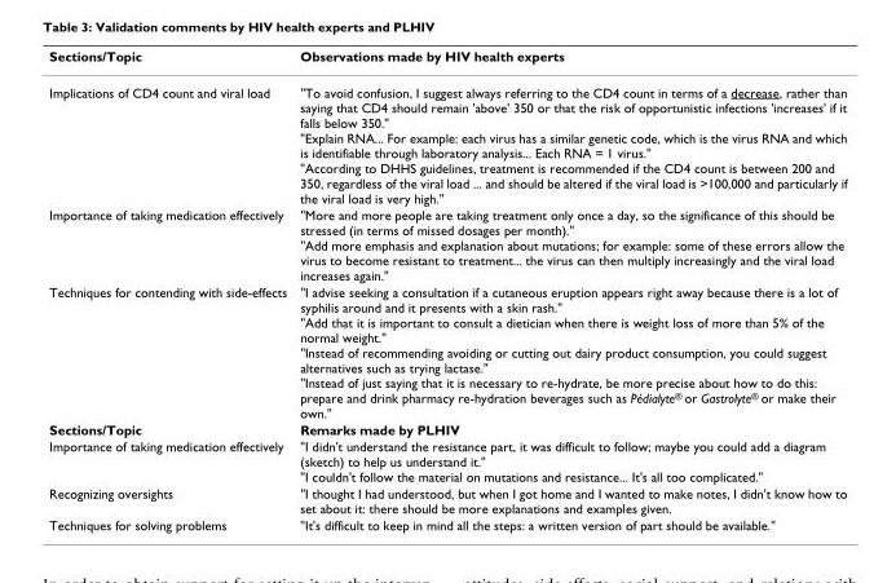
<table><thead><tr><td>Sections/Topic</td><td>Observations made by HIV health experts</td></tr></thead><tbody><tr><td>Implications of CD4 count and viral load</td><td>&quot;To avoid confusion, I suggest always referring to the CD4 count in terms of a decrease, rather than saying that CD4 should remain &#x27;above&#x27; 350 or that the risk of opportunistic infections &#x27;increases&#x27; if it falls below 350.&quot; &quot;Explain RNA... For example: each virus has a similar genetic code, which is the virus RNA and which is identifiable through laboratory analysis... Each RNA = 1 virus.&quot; &quot;According to DHHS guidelines, treatment is recommended if the CD4 count is between 200 and 350, regardless of the viral load ... and should be altered if the viral load is &gt;100,000 and particularly if the viral load is very high.&quot;</td></tr><tr><td>Importance of taking medication effectively</td><td>&quot;More and more people are taking treatment only once a day, so the significance of this should be stressed (in terms of missed dosages per month).&quot; &quot;Add more emphasis and explanation about mutations; for example: some of these errors allow the virus to become resistant to treatment... the virus can then multiply increasingly and the viral load increases again.&quot;</td></tr><tr><td>Techniques for contending with side-effects</td><td>&quot;I advise seeking a consultation if a cutaneous eruption appears right away because there is a lot of syphilis around and it presents with a skin rash.&quot; &quot;Add that it is important to consult a dietician when there is weight loss of more than 5% of the normal weight.&quot; &quot;Instead of recommending avoiding or cutting out dairy product consumption, you could suggest alternatives such as trying lactase.&quot; &quot;Instead of just saying that it is necessary to re-hydrate, be more precise about how to do this: prepare and drink pharmacy re-hydration beverages such as Pédialyte<sup>®</sup> or Gastrolyte<sup>®</sup> or make their own.&quot;</td></tr><tr><td>Sections/Topic</td><td>Remarks made by PLHIV</td></tr><tr><td>Importance of taking medication effectively</td><td>&quot;I didn&#x27;t understand the resistance part, it was difficult to follow; maybe you could add a diagram (sketch) to help us understand it.&quot; &quot;I couldn&#x27;t follow the material on mutations and resistance... It&#x27;s all too complicated.&quot;</td></tr><tr><td>Recognizing oversights</td><td>&quot;I thought I had understood, but when I got home and I wanted to make notes, I didn&#x27;t know how to set about it: there should be more explanations and examples given.</td></tr><tr><td>Techniques for solving problems</td><td>&quot;It&#x27;s difficult to keep in mind all the steps: a written version of part should be available.&quot;</td></tr></tbody></table>